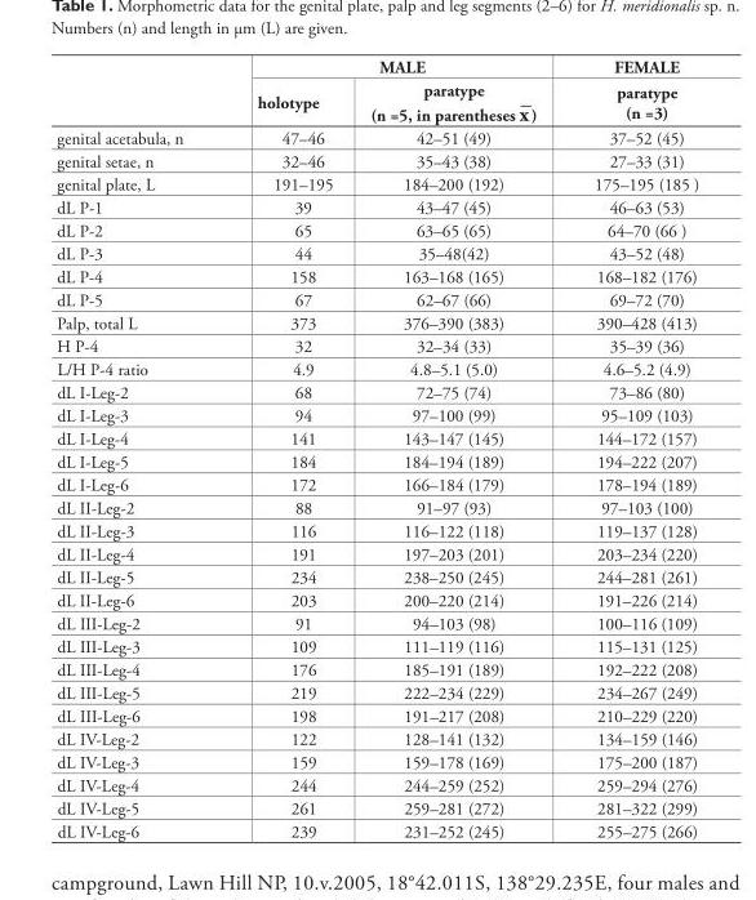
<table><thead><tr><td rowspan="2"></td><td colspan="2">MALE</td><td rowspan="2">FEMALE paratype (n =3)</td></tr><tr><td>holotype</td><td>paratype (n =5, in parentheses x¯)</td></tr></thead><tbody><tr><td>genital acetabula, n</td><td>47–46</td><td>42–51 (49)</td><td>37–52 (45)</td></tr><tr><td>genital setae, n</td><td>32–46</td><td>35–43 (38)</td><td>27–33 (31)</td></tr><tr><td>genital plate, L</td><td>191–195</td><td>184–200 (192)</td><td>175–195 (185 )</td></tr><tr><td>dL P-1</td><td>39</td><td>43–47 (45)</td><td>46–63 (53)</td></tr><tr><td>dL P-2</td><td>65</td><td>63–65 (65)</td><td>64–70 (66 )</td></tr><tr><td>dL P-3</td><td>44</td><td>35–48(42)</td><td>43–52 (48)</td></tr><tr><td>dL P-4</td><td>158</td><td>163–168 (165)</td><td>168–182 (176)</td></tr><tr><td>dL P-5</td><td>67</td><td>62–67 (66)</td><td>69–72 (70)</td></tr><tr><td>Palp, total L</td><td>373</td><td>376–390 (383)</td><td>390–428 (413)</td></tr><tr><td>H P-4</td><td>32</td><td>32–34 (33)</td><td>35–39 (36)</td></tr><tr><td>L/H P-4 ratio</td><td>4.9</td><td>4.8–5.1 (5.0)</td><td>4.6–5.2 (4.9)</td></tr><tr><td>dL I-Leg-2</td><td>68</td><td>72–75 (74)</td><td>73–86 (80)</td></tr><tr><td>dL I-Leg-3</td><td>94</td><td>97–100 (99)</td><td>95–109 (103)</td></tr><tr><td>dL I-Leg-4</td><td>141</td><td>143–147 (145)</td><td>144–172 (157)</td></tr><tr><td>dL I-Leg-5</td><td>184</td><td>184–194 (189)</td><td>194–222 (207)</td></tr><tr><td>dL I-Leg-6</td><td>172</td><td>166–184 (179)</td><td>178–194 (189)</td></tr><tr><td>dL II-Leg-2</td><td>88</td><td>91–97 (93)</td><td>97–103 (100)</td></tr><tr><td>dL II-Leg-3</td><td>116</td><td>116–122 (118)</td><td>119–137 (128)</td></tr><tr><td>dL II-Leg-4</td><td>191</td><td>197–203 (201)</td><td>203–234 (220)</td></tr><tr><td>dL II-Leg-5</td><td>234</td><td>238–250 (245)</td><td>244–281 (261)</td></tr><tr><td>dL II-Leg-6</td><td>203</td><td>200–220 (214)</td><td>191–226 (214)</td></tr><tr><td>dL III-Leg-2</td><td>91</td><td>94–103 (98)</td><td>100–116 (109)</td></tr><tr><td>dL III-Leg-3</td><td>109</td><td>111–119 (116)</td><td>115–131 (125)</td></tr><tr><td>dL III-Leg-4</td><td>176</td><td>185–191 (189)</td><td>192–222 (208)</td></tr><tr><td>dL III-Leg-5</td><td>219</td><td>222–234 (229)</td><td>234–267 (249)</td></tr><tr><td>dL III-Leg-6</td><td>198</td><td>191–217 (208)</td><td>210–229 (220)</td></tr><tr><td>dL IV-Leg-2</td><td>122</td><td>128–141 (132)</td><td>134–159 (146)</td></tr><tr><td>dL IV-Leg-3</td><td>159</td><td>159–178 (169)</td><td>175–200 (187)</td></tr><tr><td>dL IV-Leg-4</td><td>244</td><td>244–259 (252)</td><td>259–294 (276)</td></tr><tr><td>dL IV-Leg-5</td><td>261</td><td>259–281 (272)</td><td>281–322 (299)</td></tr><tr><td>dL IV-Leg-6</td><td>239</td><td>231–252 (245)</td><td>255–275 (266)</td></tr></tbody></table>